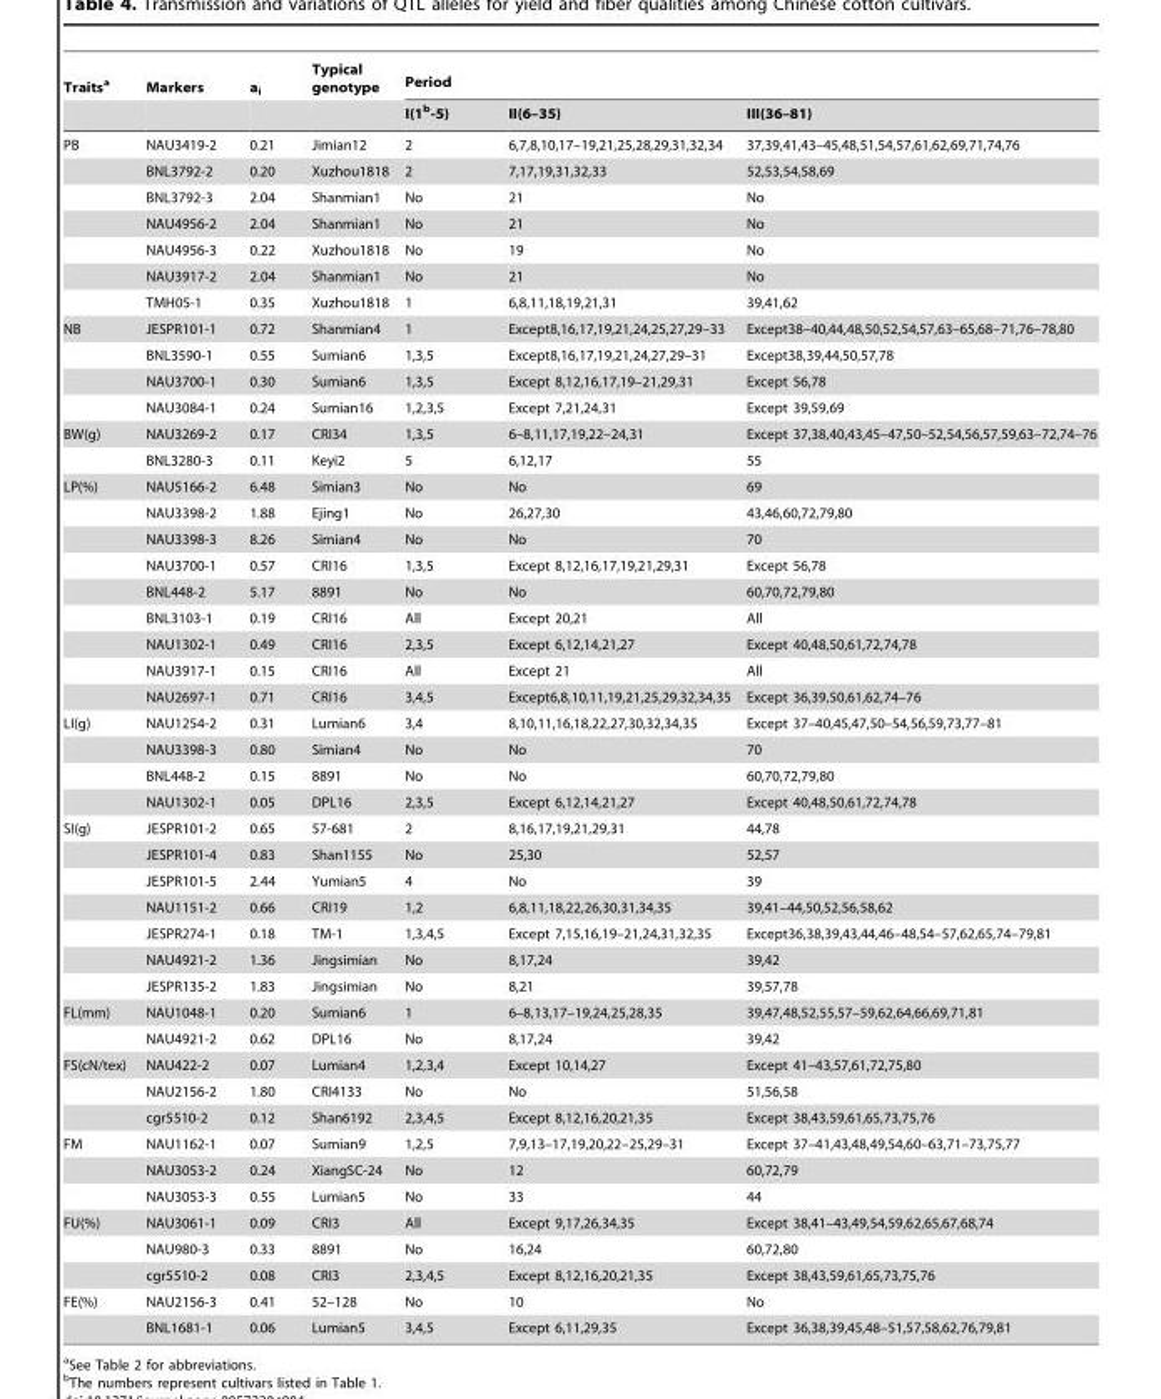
<table><thead><tr><td rowspan="2">Traits<sup>a</sup></td><td rowspan="2">Markers</td><td rowspan="2">a<sub>i</sub></td><td rowspan="2">Typical genotype</td><td colspan="3">Period</td></tr><tr><td>I(1<sup>b</sup>-5)</td><td>II(6–35)</td><td>III(36–81)</td></tr></thead><tbody><tr><td rowspan="7">PB</td><td>NAU3419-2</td><td>0.21</td><td>Jimian12</td><td>2</td><td>6,7,8,10,17–19,21,25,28,29,31,32,34</td><td>37,39,41,43–45,48,51,54,57,61,62,69,71,74,76</td></tr><tr><td>BNL3792-2</td><td>0.20</td><td>Xuzhou1818</td><td>2</td><td>7,17,19,31,32,33</td><td>52,53,54,58,69</td></tr><tr><td>BNL3792-3</td><td>2.04</td><td>Shanmian1</td><td>No</td><td>21</td><td>No</td></tr><tr><td>NAU4956-2</td><td>2.04</td><td>Shanmian1</td><td>No</td><td>21</td><td>No</td></tr><tr><td>NAU4956-3</td><td>0.22</td><td>Xuzhou1818</td><td>No</td><td>19</td><td>No</td></tr><tr><td>NAU3917-2</td><td>2.04</td><td>Shanmian1</td><td>No</td><td>21</td><td>No</td></tr><tr><td>TMH05-1</td><td>0.35</td><td>Xuzhou1818</td><td>1</td><td>6,8,11,18,19,21,31</td><td>39,41,62</td></tr><tr><td rowspan="4">NB</td><td>JESPR101-1</td><td>0.72</td><td>Shanmian4</td><td>1</td><td>Except8,16,17,19,21,24,25,27,29–33</td><td>Except38–40,44,48,50,52,54,57,63–65,68–71,76–78,80</td></tr><tr><td>BNL3590-1</td><td>0.55</td><td>Sumian6</td><td>1,3,5</td><td>Except8,16,17,19,21,24,27,29–31</td><td>Except38,39,44,50,57,78</td></tr><tr><td>NAU3700-1</td><td>0.30</td><td>Sumian6</td><td>1,3,5</td><td>Except 8,12,16,17,19–21,29,31</td><td>Except 56,78</td></tr><tr><td>NAU3084-1</td><td>0.24</td><td>Sumian16</td><td>1,2,3,5</td><td>Except 7,21,24,31</td><td>Except 39,59,69</td></tr><tr><td rowspan="2">BW(g)</td><td>NAU3269-2</td><td>0.17</td><td>CRI34</td><td>1,3,5</td><td>6–8,11,17,19,22–24,31</td><td>Except 37,38,40,43,45–47,50–52,54,56,57,59,63–72,74–76</td></tr><tr><td>BNL3280-3</td><td>0.11</td><td>Keyi2</td><td>5</td><td>6,12,17</td><td>55</td></tr><tr><td rowspan="9">LP(%)</td><td>NAU5166-2</td><td>6.48</td><td>Simian3</td><td>No</td><td>No</td><td>69</td></tr><tr><td>NAU3398-2</td><td>1.88</td><td>Ejing1</td><td>No</td><td>26,27,30</td><td>43,46,60,72,79,80</td></tr><tr><td>NAU3398-3</td><td>8.26</td><td>Simian4</td><td>No</td><td>No</td><td>70</td></tr><tr><td>NAU3700-1</td><td>0.57</td><td>CRI16</td><td>1,3,5</td><td>Except 8,12,16,17,19,21,29,31</td><td>Except 56,78</td></tr><tr><td>BNL448-2</td><td>5.17</td><td>8891</td><td>No</td><td>No</td><td>60,70,72,79,80</td></tr><tr><td>BNL3103-1</td><td>0.19</td><td>CRI16</td><td>All</td><td>Except 20,21</td><td>All</td></tr><tr><td>NAU1302-1</td><td>0.49</td><td>CRI16</td><td>2,3,5</td><td>Except 6,12,14,21,27</td><td>Except 40,48,50,61,72,74,78</td></tr><tr><td>NAU3917-1</td><td>0.15</td><td>CRI16</td><td>All</td><td>Except 21</td><td>All</td></tr><tr><td>NAU2697-1</td><td>0.71</td><td>CRI16</td><td>3,4,5</td><td>Except6,8,10,11,19,21,25,29,32,34,35</td><td>Except 36,39,50,61,62,74–76</td></tr><tr><td rowspan="4">LI(g)</td><td>NAU1254-2</td><td>0.31</td><td>Lumian6</td><td>3,4</td><td>8,10,11,16,18,22,27,30,32,34,35</td><td>Except 37–40,45,47,50–54,56,59,73,77–81</td></tr><tr><td>NAU3398-3</td><td>0.80</td><td>Simian4</td><td>No</td><td>No</td><td>70</td></tr><tr><td>BNL448-2</td><td>0.15</td><td>8891</td><td>No</td><td>No</td><td>60,70,72,79,80</td></tr><tr><td>NAU1302-1</td><td>0.05</td><td>DPL16</td><td>2,3,5</td><td>Except 6,12,14,21,27</td><td>Except 40,48,50,61,72,74,78</td></tr><tr><td rowspan="7">SI(g)</td><td>JESPR101-2</td><td>0.65</td><td>57-681</td><td>2</td><td>8,16,17,19,21,29,31</td><td>44,78</td></tr><tr><td>JESPR101-4</td><td>0.83</td><td>Shan1155</td><td>No</td><td>25,30</td><td>52,57</td></tr><tr><td>JESPR101-5</td><td>2.44</td><td>Yumian5</td><td>4</td><td>No</td><td>39</td></tr><tr><td>NAU1151-2</td><td>0.66</td><td>CRI19</td><td>1,2</td><td>6,8,11,18,22,26,30,31,34,35</td><td>39,41–44,50,52,56,58,62</td></tr><tr><td>JESPR274-1</td><td>0.18</td><td>TM-1</td><td>1,3,4,5</td><td>Except 7,15,16,19–21,24,31,32,35</td><td>Except36,38,39,43,44,46–48,54–57,62,65,74–79,81</td></tr><tr><td>NAU4921-2</td><td>1.36</td><td>Jingsimian</td><td>No</td><td>8,17,24</td><td>39,42</td></tr><tr><td>JESPR135-2</td><td>1.83</td><td>Jingsimian</td><td>No</td><td>8,21</td><td>39,57,78</td></tr><tr><td rowspan="2">FL(mm)</td><td>NAU1048-1</td><td>0.20</td><td>Sumian6</td><td>1</td><td>6–8,13,17–19,24,25,28,35</td><td>39,47,48,52,55,57–59,62,64,66,69,71,81</td></tr><tr><td>NAU4921-2</td><td>0.62</td><td>DPL16</td><td>No</td><td>8,17,24</td><td>39,42</td></tr><tr><td rowspan="3">FS(cN/tex)</td><td>NAU422-2</td><td>0.07</td><td>Lumian4</td><td>1,2,3,4</td><td>Except 10,14,27</td><td>Except 41–43,57,61,72,75,80</td></tr><tr><td>NAU2156-2</td><td>1.80</td><td>CRI4133</td><td>No</td><td>No</td><td>51,56,58</td></tr><tr><td>cgr5510-2</td><td>0.12</td><td>Shan6192</td><td>2,3,4,5</td><td>Except 8,12,16,20,21,35</td><td>Except 38,43,59,61,65,73,75,76</td></tr><tr><td rowspan="3">FM</td><td>NAU1162-1</td><td>0.07</td><td>Sumian9</td><td>1,2,5</td><td>7,9,13–17,19,20,22–25,29–31</td><td>Except 37–41,43,48,49,54,60–63,71–73,75,77</td></tr><tr><td>NAU3053-2</td><td>0.24</td><td>XiangSC-24</td><td>No</td><td>12</td><td>60,72,79</td></tr><tr><td>NAU3053-3</td><td>0.55</td><td>Lumian5</td><td>No</td><td>33</td><td>44</td></tr><tr><td rowspan="3">FU(%)</td><td>NAU3061-1</td><td>0.09</td><td>CRI3</td><td>All</td><td>Except 9,17,26,34,35</td><td>Except 38,41–43,49,54,59,62,65,67,68,74</td></tr><tr><td>NAU980-3</td><td>0.33</td><td>8891</td><td>No</td><td>16,24</td><td>60,72,80</td></tr><tr><td>cgr5510-2</td><td>0.08</td><td>CRI3</td><td>2,3,4,5</td><td>Except 8,12,16,20,21,35</td><td>Except 38,43,59,61,65,73,75,76</td></tr><tr><td rowspan="2">FE(%)</td><td>NAU2156-3</td><td>0.41</td><td>52–128</td><td>No</td><td>10</td><td>No</td></tr><tr><td>BNL1681-1</td><td>0.06</td><td>Lumian5</td><td>3,4,5</td><td>Except 6,11,29,35</td><td>Except 36,38,39,45,48–51,57,58,62,76,79,81</td></tr></tbody></table>